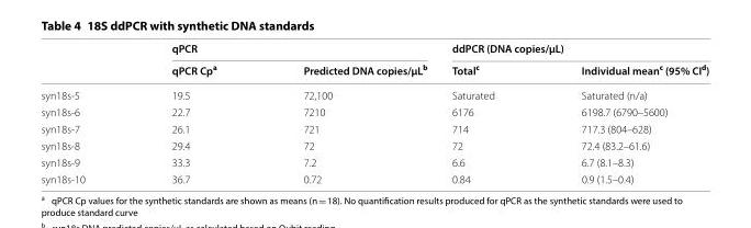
<table><thead><tr><td rowspan="2"></td><td colspan="2">qPCR</td><td colspan="2">ddPCR (DNA copies/µL)</td></tr><tr><td>qPCR Cp<sup>a</sup></td><td>Predicted DNA copies/µL<sup>b</sup></td><td>Total<sup>c</sup></td><td>Individual mean<sup>c</sup> (95% CI<sup>d</sup>)</td></tr></thead><tbody><tr><td>syn18s-5</td><td>19.5</td><td>72,100</td><td>Saturated</td><td>Saturated (n/a)</td></tr><tr><td>syn18s-6</td><td>22.7</td><td>7210</td><td>6176</td><td>6198.7 (6790–5600)</td></tr><tr><td>syn18s-7</td><td>26.1</td><td>721</td><td>714</td><td>717.3 (804–628)</td></tr><tr><td>syn18s-8</td><td>29.4</td><td>72</td><td>72</td><td>72.4 (83.2–61.6)</td></tr><tr><td>syn18s-9</td><td>33.3</td><td>7.2</td><td>6.6</td><td>6.7 (8.1–8.3)</td></tr><tr><td>syn18s-10</td><td>36.7</td><td>0.72</td><td>0.84</td><td>0.9 (1.5–0.4)</td></tr></tbody></table>